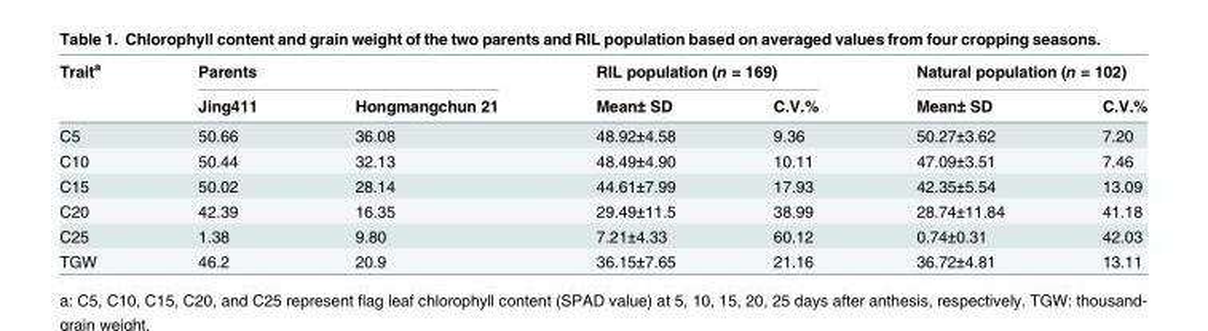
<table><thead><tr><td rowspan="2">Trait<sup>a</sup></td><td colspan="2">Parents</td><td colspan="2">RIL population (n = 169)</td><td colspan="2">Natural population (n = 102)</td></tr><tr><td>Jing411</td><td>Hongmangchun 21</td><td>Mean± SD</td><td>C.V.%</td><td>Mean± SD</td><td>C.V.%</td></tr></thead><tbody><tr><td>C5</td><td>50.66</td><td>36.08</td><td>48.92±4.58</td><td>9.36</td><td>50.27±3.62</td><td>7.20</td></tr><tr><td>C10</td><td>50.44</td><td>32.13</td><td>48.49±4.90</td><td>10.11</td><td>47.09±3.51</td><td>7.46</td></tr><tr><td>C15</td><td>50.02</td><td>28.14</td><td>44.61±7.99</td><td>17.93</td><td>42.35±5.54</td><td>13.09</td></tr><tr><td>C20</td><td>42.39</td><td>16.35</td><td>29.49±11.5</td><td>38.99</td><td>28.74±11.84</td><td>41.18</td></tr><tr><td>C25</td><td>1.38</td><td>9.80</td><td>7.21±4.33</td><td>60.12</td><td>0.74±0.31</td><td>42.03</td></tr><tr><td>TGW</td><td>46.2</td><td>20.9</td><td>36.15±7.65</td><td>21.16</td><td>36.72±4.81</td><td>13.11</td></tr></tbody></table>